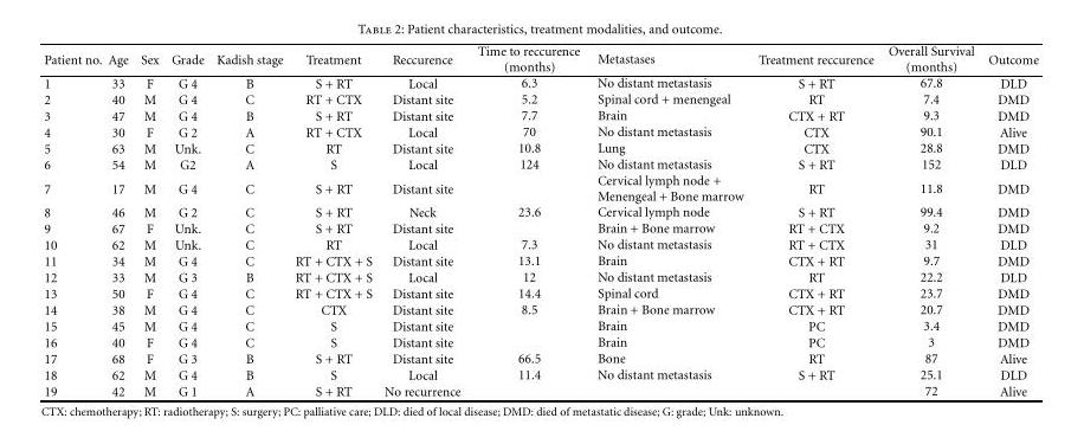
<table><thead><tr><td>Patient no.</td><td>Age</td><td>Sex</td><td>Grade</td><td>Kadish stage</td><td>Treatment</td><td>Reccurence</td><td>Time to reccurence (months)</td><td>Metastases</td><td>Treatment reccurence</td><td>Overall Survival (months)</td><td>Outcome</td></tr></thead><tbody><tr><td>1</td><td>33</td><td>F</td><td>G 4</td><td>B</td><td>S + RT</td><td>Local</td><td>6.3</td><td>No distant metastasis</td><td>S + RT</td><td>67.8</td><td>DLD</td></tr><tr><td>2</td><td>40</td><td>M</td><td>G 4</td><td>C</td><td>RT + CTX</td><td>Distant site</td><td>5.2</td><td>Spinal cord + menengeal</td><td>RT</td><td>7.4</td><td>DMD</td></tr><tr><td>3</td><td>47</td><td>M</td><td>G 4</td><td>B</td><td>S + RT</td><td>Distant site</td><td>7.7</td><td>Brain</td><td>CTX + RT</td><td>9.3</td><td>DMD</td></tr><tr><td>4</td><td>30</td><td>F</td><td>G 2</td><td>A</td><td>RT + CTX</td><td>Local</td><td>70</td><td>No distant metastasis</td><td>CTX</td><td>90.1</td><td>Alive</td></tr><tr><td>5</td><td>63</td><td>M</td><td>Unk.</td><td>C</td><td>RT</td><td>Distant site</td><td>10.8</td><td>Lung</td><td>CTX</td><td>28.8</td><td>DMD</td></tr><tr><td>6</td><td>54</td><td>M</td><td>G2</td><td>A</td><td>S</td><td>Local</td><td>124</td><td>No distant metastasis</td><td>S + RT</td><td>152</td><td>DLD</td></tr><tr><td>7</td><td>17</td><td>M</td><td>G 4</td><td>C</td><td>S + RT</td><td>Distant site</td><td></td><td>Cervical lymph node + Menengeal + Bone marrow</td><td>RT</td><td>11.8</td><td>DMD</td></tr><tr><td>8</td><td>46</td><td>M</td><td>G 2</td><td>C</td><td>S + RT</td><td>Neck</td><td>23.6</td><td>Cervical lymph node</td><td>S + RT</td><td>99.4</td><td>DMD</td></tr><tr><td>9</td><td>67</td><td>F</td><td>Unk.</td><td>C</td><td>S + RT</td><td>Distant site</td><td></td><td>Brain + Bone marrow</td><td>RT + CTX</td><td>9.2</td><td>DMD</td></tr><tr><td>10</td><td>62</td><td>M</td><td>Unk.</td><td>C</td><td>RT</td><td>Local</td><td>7.3</td><td>No distant metastasis</td><td>RT + CTX</td><td>31</td><td>DLD</td></tr><tr><td>11</td><td>34</td><td>M</td><td>G 4</td><td>C</td><td>RT + CTX + S</td><td>Distant site</td><td>13.1</td><td>Brain</td><td>CTX + RT</td><td>9.7</td><td>DMD</td></tr><tr><td>12</td><td>33</td><td>M</td><td>G 3</td><td>B</td><td>RT + CTX + S</td><td>Local</td><td>12</td><td>No distant metastasis</td><td>RT</td><td>22.2</td><td>DLD</td></tr><tr><td>13</td><td>50</td><td>F</td><td>G 4</td><td>C</td><td>RT + CTX + S</td><td>Distant site</td><td>14.4</td><td>Spinal cord</td><td>CTX + RT</td><td>23.7</td><td>DMD</td></tr><tr><td>14</td><td>38</td><td>M</td><td>G 4</td><td>C</td><td>CTX</td><td>Distant site</td><td>8.5</td><td>Brain + Bone marrow</td><td>CTX + RT</td><td>20.7</td><td>DMD</td></tr><tr><td>15</td><td>45</td><td>M</td><td>G 4</td><td>C</td><td>S</td><td>Distant site</td><td></td><td>Brain</td><td>PC</td><td>3.4</td><td>DMD</td></tr><tr><td>16</td><td>40</td><td>F</td><td>G 4</td><td>C</td><td>S</td><td>Distant site</td><td></td><td>Brain</td><td>PC</td><td>3</td><td>DMD</td></tr><tr><td>17</td><td>68</td><td>F</td><td>G 3</td><td>B</td><td>S + RT</td><td>Distant site</td><td>66.5</td><td>Bone</td><td>RT</td><td>87</td><td>Alive</td></tr><tr><td>18</td><td>62</td><td>M</td><td>G 4</td><td>B</td><td>S</td><td>Local</td><td>11.4</td><td>No distant metastasis</td><td>S + RT</td><td>25.1</td><td>DLD</td></tr><tr><td>19</td><td>42</td><td>M</td><td>G 1</td><td>A</td><td>S + RT</td><td>No recurrence</td><td></td><td></td><td></td><td>72</td><td>Alive</td></tr></tbody></table>